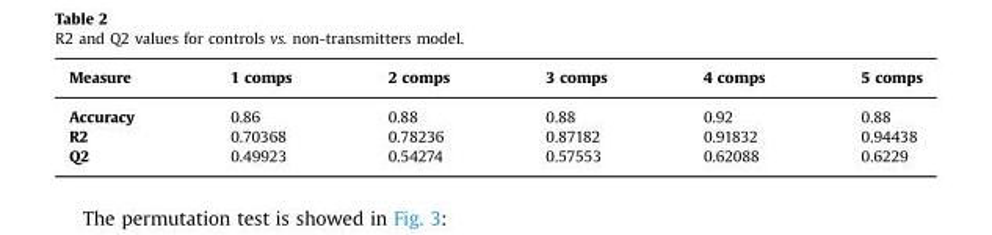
<table><thead><tr><td>Measure</td><td>1 comps</td><td>2 comps</td><td>3 comps</td><td>4 comps</td><td>5 comps</td></tr></thead><tbody><tr><td>Accuracy</td><td>0.86</td><td>0.88</td><td>0.88</td><td>0.92</td><td>0.88</td></tr><tr><td>R2</td><td>0.70368</td><td>0.78236</td><td>0.87182</td><td>0.91832</td><td>0.94438</td></tr><tr><td>Q2</td><td>0.49923</td><td>0.54274</td><td>0.57553</td><td>0.62088</td><td>0.6229</td></tr></tbody></table>